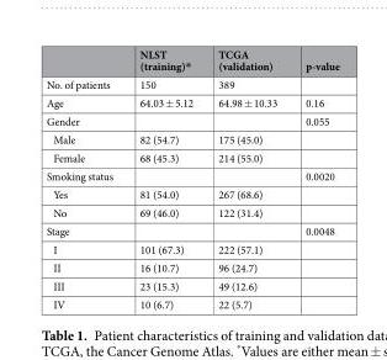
<table><thead><tr><td></td><td>NLST (training)*</td><td>TCGA (validation)</td><td>p-value</td></tr></thead><tbody><tr><td>No. of patients</td><td>150</td><td>389</td><td></td></tr><tr><td>Age</td><td>64.03 ± 5.12</td><td>64.98 ± 10.33</td><td>0.16</td></tr><tr><td>Gender</td><td></td><td></td><td>0.055</td></tr><tr><td>Male</td><td>82 (54.7)</td><td>175 (45.0)</td><td></td></tr><tr><td>Female</td><td>68 (45.3)</td><td>214 (55.0)</td><td></td></tr><tr><td>Smoking status</td><td></td><td></td><td>0.0020</td></tr><tr><td>Yes</td><td>81 (54.0)</td><td>267 (68.6)</td><td></td></tr><tr><td>No</td><td>69 (46.0)</td><td>122 (31.4)</td><td></td></tr><tr><td>Stage</td><td></td><td></td><td>0.0048</td></tr><tr><td>I</td><td>101 (67.3)</td><td>222 (57.1)</td><td></td></tr><tr><td>II</td><td>16 (10.7)</td><td>96 (24.7)</td><td></td></tr><tr><td>III</td><td>23 (15.3)</td><td>49 (12.6)</td><td></td></tr><tr><td>IV</td><td>10 (6.7)</td><td>22 (5.7)</td><td></td></tr></tbody></table>